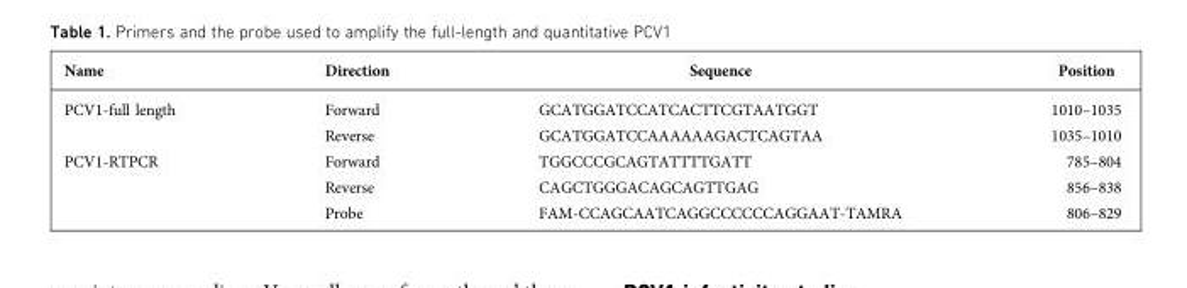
<table><thead><tr><td>Name</td><td>Direction</td><td>Sequence</td><td>Position</td></tr></thead><tbody><tr><td rowspan="2">PCV1-full length</td><td>Forward</td><td>GCATGGATCCATCACTTCGTAATGGT</td><td>1010–1035</td></tr><tr><td>Reverse</td><td>GCATGGATCCAAAAAAGACTCAGTAA</td><td>1035–1010</td></tr><tr><td rowspan="3">PCV1-RTPCR</td><td>Forward</td><td>TGGCCCGCAGTATTTTGATT</td><td>785–804</td></tr><tr><td>Reverse</td><td>CAGCTGGGACAGCAGTTGAG</td><td>856–838</td></tr><tr><td>Probe</td><td>FAM-CCAGCAATCAGGCCCCCCAGGAAT-TAMRA</td><td>806–829</td></tr></tbody></table>